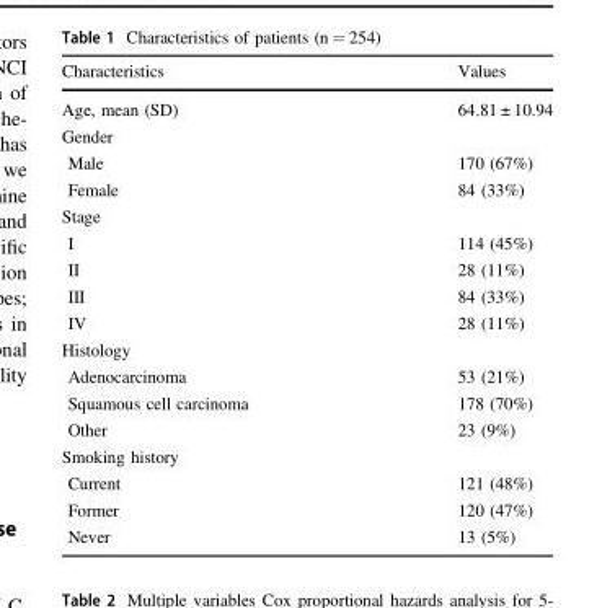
<table><thead><tr><td>Characteristics</td><td>Values</td></tr></thead><tbody><tr><td>Age, mean (SD)</td><td>64.81 ± 10.94</td></tr><tr><td colspan="2">Gender</td></tr><tr><td>Male</td><td>170 (67%)</td></tr><tr><td>Female</td><td>84 (33%)</td></tr><tr><td colspan="2">Stage</td></tr><tr><td>I</td><td>114 (45%)</td></tr><tr><td>II</td><td>28 (11%)</td></tr><tr><td>III</td><td>84 (33%)</td></tr><tr><td>IV</td><td>28 (11%)</td></tr><tr><td colspan="2">Histology</td></tr><tr><td>Adenocarcinoma</td><td>53 (21%)</td></tr><tr><td>Squamous cell carcinoma</td><td>178 (70%)</td></tr><tr><td>Other</td><td>23 (9%)</td></tr><tr><td colspan="2">Smoking history</td></tr><tr><td>Current</td><td>121 (48%)</td></tr><tr><td>Former</td><td>120 (47%)</td></tr><tr><td>Never</td><td>13 (5%)</td></tr></tbody></table>